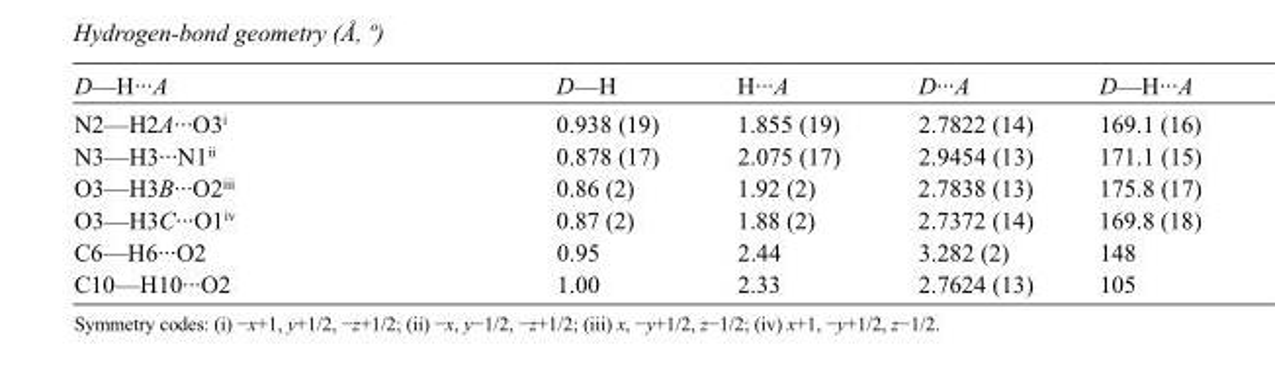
<table><tbody><tr><td>D—H···A</td><td>D—H</td><td>H···A</td><td>D···A</td><td>D—H···A</td></tr><tr><td>N2—H2A···O3<sup>i</sup></td><td>0.938 (19)</td><td>1.855 (19)</td><td>2.7822 (14)</td><td>169.1 (16)</td></tr><tr><td>N3—H3···N1<sup>ii</sup></td><td>0.878 (17)</td><td>2.075 (17)</td><td>2.9454 (13)</td><td>171.1 (15)</td></tr><tr><td>O3—H3B···O2<sup>iii</sup></td><td>0.86 (2)</td><td>1.92 (2)</td><td>2.7838 (13)</td><td>175.8 (17)</td></tr><tr><td>O3—H3C···O1<sup>iv</sup></td><td>0.87 (2)</td><td>1.88 (2)</td><td>2.7372 (14)</td><td>169.8 (18)</td></tr><tr><td>C6—H6···O2</td><td>0.95</td><td>2.44</td><td>3.282 (2)</td><td>148</td></tr><tr><td>C10—H10···O2</td><td>1.00</td><td>2.33</td><td>2.7624 (13)</td><td>105</td></tr></tbody></table>